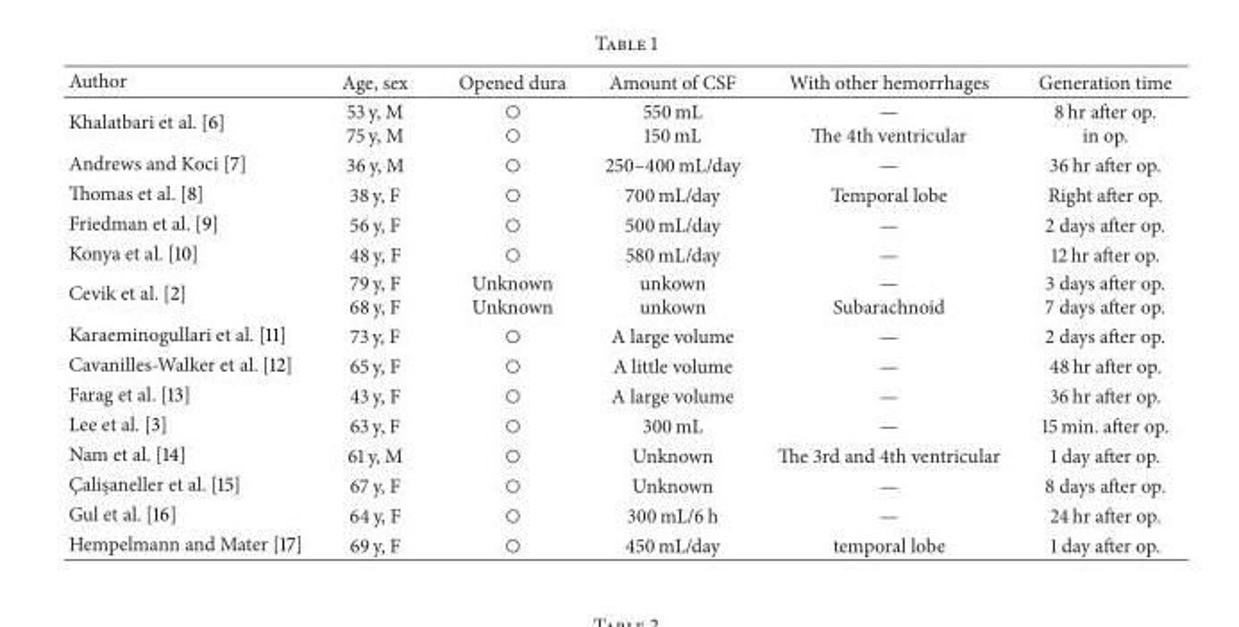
<table><thead><tr><td>Author</td><td>Age, sex</td><td>Opened dura</td><td>Amount of CSF</td><td>With other hemorrhages</td><td>Generation time</td></tr></thead><tbody><tr><td>Khalatbari et al. [6]</td><td>53 y, M 75 y, M</td><td>○ ○</td><td>550 mL 150 mL</td><td>— The 4th ventricular</td><td>8 hr after op. in op.</td></tr><tr><td>Andrews and Koci [7]</td><td>36 y, M</td><td>○</td><td>250–400 mL/day</td><td>—</td><td>36 hr after op.</td></tr><tr><td>Thomas et al. [8]</td><td>38 y, F</td><td>○</td><td>700 mL/day</td><td>Temporal lobe</td><td>Right after op.</td></tr><tr><td>Friedman et al. [9]</td><td>56 y, F</td><td>○</td><td>500 mL/day</td><td>—</td><td>2 days after op.</td></tr><tr><td>Konya et al. [10]</td><td>48 y, F</td><td>○</td><td>580 mL/day</td><td>—</td><td>12 hr after op.</td></tr><tr><td>Cevik et al. [2]</td><td>79 y, F 68 y, F</td><td>Unknown Unknown</td><td>unkown unkown</td><td>— Subarachnoid</td><td>3 days after op. 7 days after op.</td></tr><tr><td>Karaeminogullari et al. [11]</td><td>73 y, F</td><td>○</td><td>A large volume</td><td>—</td><td>2 days after op.</td></tr><tr><td>Cavanilles-Walker et al. [12]</td><td>65 y, F</td><td>○</td><td>A little volume</td><td>—</td><td>48 hr after op.</td></tr><tr><td>Farag et al. [13]</td><td>43 y, F</td><td>○</td><td>A large volume</td><td>—</td><td>36 hr after op.</td></tr><tr><td>Lee et al. [3]</td><td>63 y, F</td><td>○</td><td>300 mL</td><td>—</td><td>15 min. after op.</td></tr><tr><td>Nam et al. [14]</td><td>61 y, M</td><td>○</td><td>Unknown</td><td>The 3rd and 4th ventricular</td><td>1 day after op.</td></tr><tr><td>C¸alis¸aneller et al. [15]</td><td>67 y, F</td><td>○</td><td>Unknown</td><td>—</td><td>8 days after op.</td></tr><tr><td>Gul et al. [16]</td><td>64 y, F</td><td>○</td><td>300 mL/6 h</td><td>—</td><td>24 hr after op.</td></tr><tr><td>Hempelmann and Mater [17]</td><td>69 y, F</td><td>○</td><td>450 mL/day</td><td>temporal lobe</td><td>1 day after op.</td></tr></tbody></table>